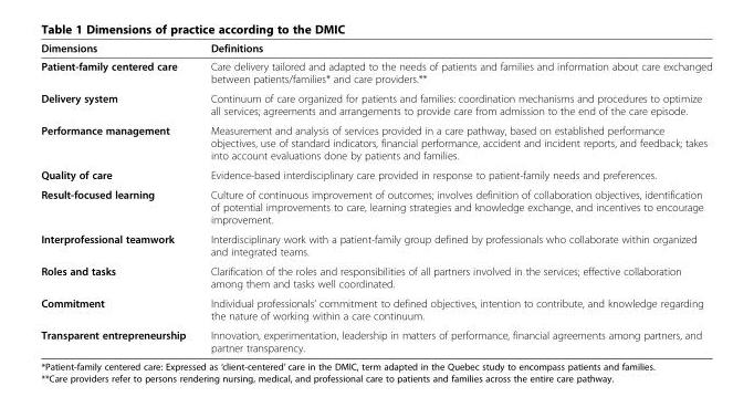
<table><thead><tr><td>Dimensions</td><td>Definitions</td></tr></thead><tbody><tr><td>Patient-family centered care</td><td>Care delivery tailored and adapted to the needs of patients and families and information about care exchanged between patients/families* and care providers.**</td></tr><tr><td>Delivery system</td><td>Continuum of care organized for patients and families: coordination mechanisms and procedures to optimize all services; agreements and arrangements to provide care from admission to the end of the care episode.</td></tr><tr><td>Performance management</td><td>Measurement and analysis of services provided in a care pathway, based on established performance objectives, use of standard indicators, financial performance, accident and incident reports, and feedback; takes into account evaluations done by patients and families.</td></tr><tr><td>Quality of care</td><td>Evidence-based interdisciplinary care provided in response to patient-family needs and preferences.</td></tr><tr><td>Result-focused learning</td><td>Culture of continuous improvement of outcomes; involves definition of collaboration objectives, identification of potential improvements to care, learning strategies and knowledge exchange, and incentives to encourage improvement.</td></tr><tr><td>Interprofessional teamwork</td><td>Interdisciplinary work with a patient-family group defined by professionals who collaborate within organized and integrated teams.</td></tr><tr><td>Roles and tasks</td><td>Clarification of the roles and responsibilities of all partners involved in the services; effective collaboration among them and tasks well coordinated.</td></tr><tr><td>Commitment</td><td>Individual professionals’ commitment to defined objectives, intention to contribute, and knowledge regarding the nature of working within a care continuum.</td></tr><tr><td>Transparent entrepreneurship</td><td>Innovation, experimentation, leadership in matters of performance, financial agreements among partners, and partner transparency.</td></tr></tbody></table>